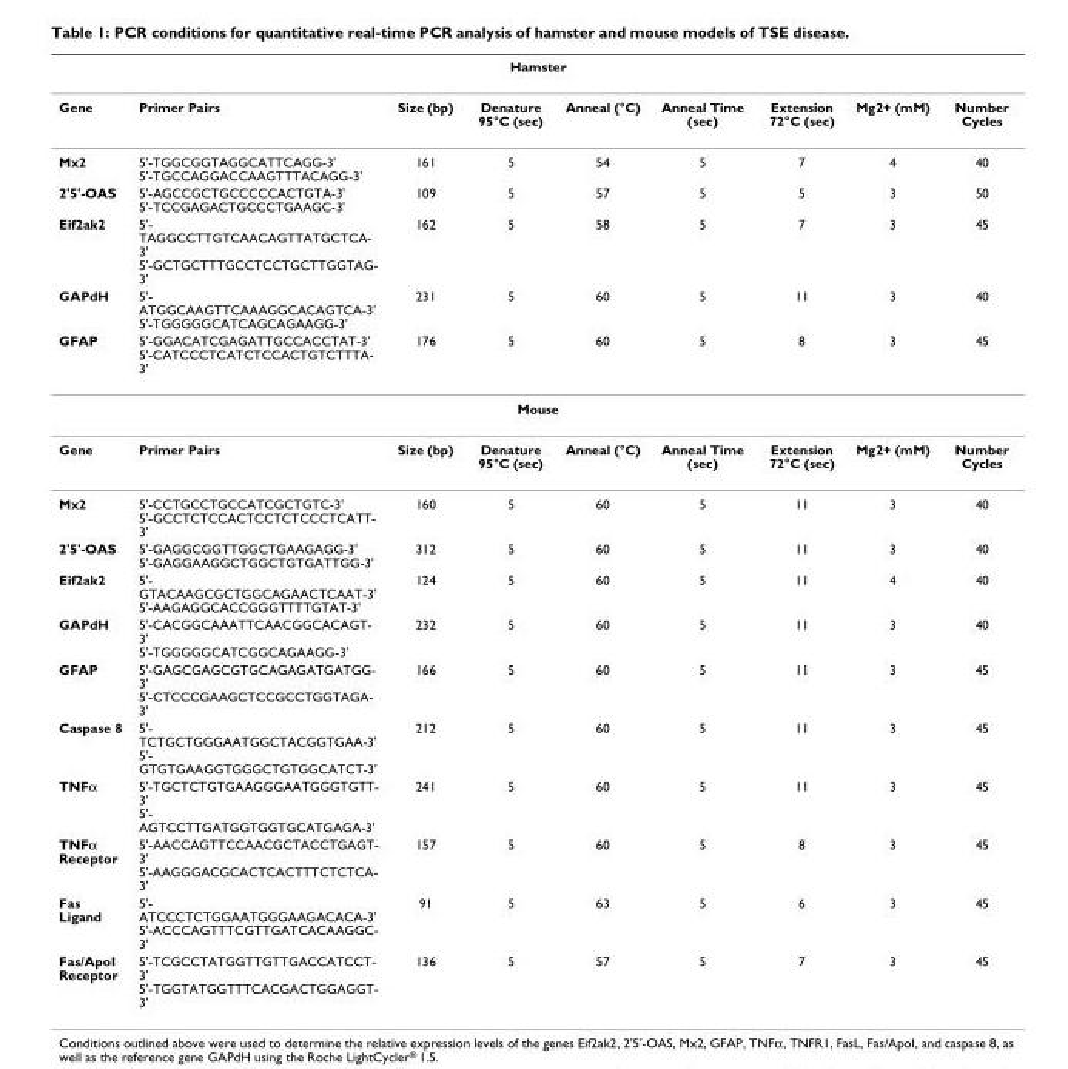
<table><thead><tr><td colspan="9">Hamster</td></tr><tr><td>Gene</td><td>Primer Pairs</td><td>Size (bp)</td><td>Denature 95°C (sec)</td><td>Anneal (°C)</td><td>Anneal Time (sec)</td><td>Extension 72°C (sec)</td><td>Mg2+ (mM)</td><td>Number Cycles</td></tr></thead><tbody><tr><td>Mx2</td><td>5&#x27;-TGGCGGTAGGCATTCAGG-3&#x27; 5&#x27;-TGCCAGGACCAAGTTTACAGG-3&#x27;</td><td>161</td><td>5</td><td>54</td><td>5</td><td>7</td><td>4</td><td>40</td></tr><tr><td>2&#x27;5&#x27;-OAS</td><td>5&#x27;-AGCCGCTGCCCCCACTGTA-3&#x27; 5&#x27;-TCCGAGACTGCCCTGAAGC-3&#x27;</td><td>109</td><td>5</td><td>57</td><td>5</td><td>5</td><td>3</td><td>50</td></tr><tr><td>Eif2ak2</td><td>5&#x27;- TAGGCCTTGTCAACAGTTATGCTCA- 3&#x27; 5&#x27;-GCTGCTTTGCCTCCTGCTTGGTAG- 3&#x27;</td><td>162</td><td>5</td><td>58</td><td>5</td><td>7</td><td>3</td><td>45</td></tr><tr><td>GAPdH</td><td>5&#x27;- ATGGCAAGTTCAAAGGCACAGTCA-3&#x27; 5&#x27;-TGGGGGCATCAGCAGAAGG-3&#x27;</td><td>231</td><td>5</td><td>60</td><td>5</td><td>11</td><td>3</td><td>40</td></tr><tr><td>GFAP</td><td>5&#x27;-GGACATCGAGATTGCCACCTAT-3&#x27; 5&#x27;-CATCCCTCATCTCCACTGTCTTTA- 3&#x27;</td><td>176</td><td>5</td><td>60</td><td>5</td><td>8</td><td>3</td><td>45</td></tr><tr><td colspan="9">Mouse</td></tr><tr><td>Gene</td><td>Primer Pairs</td><td>Size (bp)</td><td>Denature 95°C (sec)</td><td>Anneal (°C)</td><td>Anneal Time (sec)</td><td>Extension 72°C (sec)</td><td>Mg2+ (mM)</td><td>Number Cycles</td></tr><tr><td>Mx2</td><td>5&#x27;-CCTGCCTGCCATCGCTGTC-3&#x27; 5&#x27;-GCCTCTCCACTCCTCTCCCTCATT- 3&#x27;</td><td>160</td><td>5</td><td>60</td><td>5</td><td>11</td><td>3</td><td>40</td></tr><tr><td>2&#x27;5&#x27;-OAS</td><td>5&#x27;-GAGGCGGTTGGCTGAAGAGG-3&#x27; 5&#x27;-GAGGAAGGCTGGCTGTGATTGG-3&#x27;</td><td>312</td><td>5</td><td>60</td><td>5</td><td>11</td><td>3</td><td>40</td></tr><tr><td>Eif2ak2</td><td>5&#x27;- GTACAAGCGCTGGCAGAACTCAAT-3&#x27; 5&#x27;-AAGAGGCACCGGGTTTTGTAT-3&#x27;</td><td>124</td><td>5</td><td>60</td><td>5</td><td>11</td><td>4</td><td>40</td></tr><tr><td>GAPdH</td><td>5&#x27;-CACGGCAAATTCAACGGCACAGT- 3&#x27; 5&#x27;-TGGGGGCATCGGCAGAAGG-3&#x27;</td><td>232</td><td>5</td><td>60</td><td>5</td><td>11</td><td>3</td><td>40</td></tr><tr><td>GFAP</td><td>5&#x27;-GAGCGAGCGTGCAGAGATGATGG- 3&#x27; 5&#x27;-CTCCCGAAGCTCCGCCTGGTAGA- 3&#x27;</td><td>166</td><td>5</td><td>60</td><td>5</td><td>11</td><td>3</td><td>45</td></tr><tr><td>Caspase 8</td><td>5&#x27;- TCTGCTGGGAATGGCTACGGTGAA-3&#x27; 5&#x27;- GTGTGAAGGTGGGCTGTGGCATCT-3&#x27;</td><td>212</td><td>5</td><td>60</td><td>5</td><td>11</td><td>3</td><td>45</td></tr><tr><td>TNFα</td><td>5&#x27;-TGCTCTGTGAAGGGAATGGGTGTT- 3&#x27; 5&#x27;- AGTCCTTGATGGTGGTGCATGAGA-3&#x27;</td><td>241</td><td>5</td><td>60</td><td>5</td><td>11</td><td>3</td><td>45</td></tr><tr><td>TNFα Receptor</td><td>5&#x27;-AACCAGTTCCAACGCTACCTGAGT- 3&#x27; 5&#x27;-AAGGGACGCACTCACTTTCTCTCA- 3&#x27;</td><td>157</td><td>5</td><td>60</td><td>5</td><td>8</td><td>3</td><td>45</td></tr><tr><td>Fas Ligand</td><td>5&#x27;- ATCCCTCTGGAATGGGAAGACACA-3&#x27; 5&#x27;-ACCCAGTTTCGTTGATCACAAGGC- 3&#x27;</td><td>91</td><td>5</td><td>63</td><td>5</td><td>6</td><td>3</td><td>45</td></tr><tr><td>Fas/ApoI Receptor</td><td>5&#x27;-TCGCCTATGGTTGTTGACCATCCT- 3&#x27; 5&#x27;-TGGTATGGTTTCACGACTGGAGGT- 3&#x27;</td><td>136</td><td>5</td><td>57</td><td>5</td><td>7</td><td>3</td><td>45</td></tr></tbody></table>